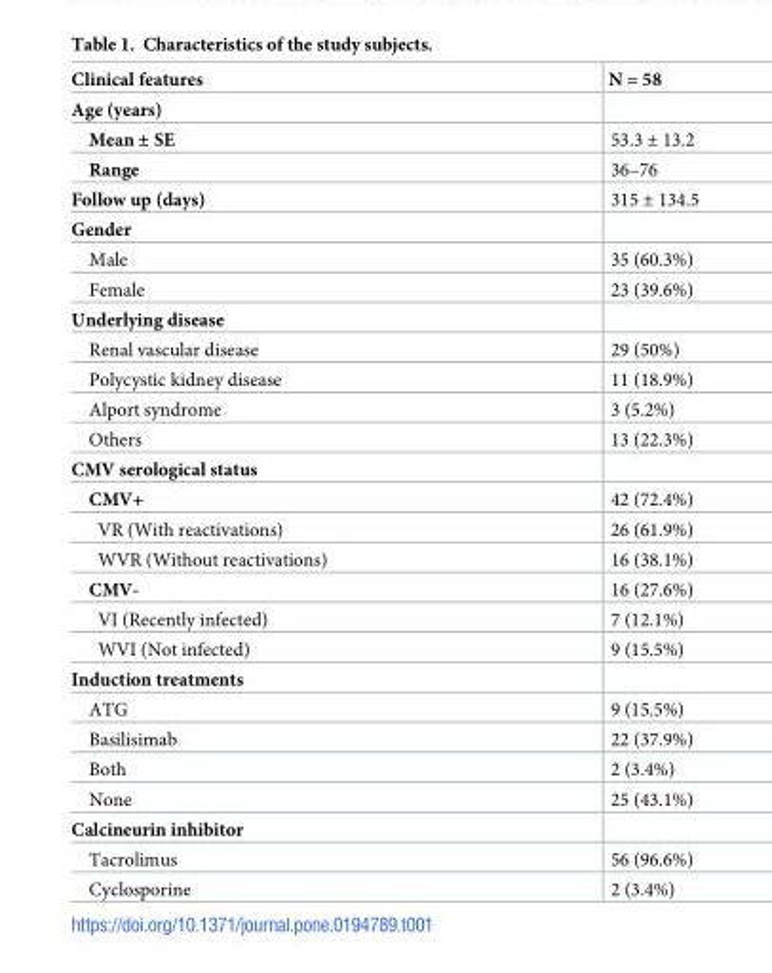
<table><thead><tr><td>Clinical features</td><td>N = 58</td></tr></thead><tbody><tr><td colspan="2">Age (years)</td></tr><tr><td>Mean ± SE</td><td>53.3 ± 13.2</td></tr><tr><td>Range</td><td>36–76</td></tr><tr><td>Follow up (days)</td><td>315 ± 134.5</td></tr><tr><td colspan="2">Gender</td></tr><tr><td>Male</td><td>35 (60.3%)</td></tr><tr><td>Female</td><td>23 (39.6%)</td></tr><tr><td colspan="2">Underlying disease</td></tr><tr><td>Renal vascular disease</td><td>29 (50%)</td></tr><tr><td>Polycystic kidney disease</td><td>11 (18.9%)</td></tr><tr><td>Alport syndrome</td><td>3 (5.2%)</td></tr><tr><td>Others</td><td>13 (22.3%)</td></tr><tr><td colspan="2">CMV serological status</td></tr><tr><td>CMV+</td><td>42 (72.4%)</td></tr><tr><td>VR (With reactivations)</td><td>26 (61.9%)</td></tr><tr><td>WVR (Without reactivations)</td><td>16 (38.1%)</td></tr><tr><td>CMV-</td><td>16 (27.6%)</td></tr><tr><td>VI (Recently infected)</td><td>7 (12.1%)</td></tr><tr><td>WVI (Not infected)</td><td>9 (15.5%)</td></tr><tr><td colspan="2">Induction treatments</td></tr><tr><td>ATG</td><td>9 (15.5%)</td></tr><tr><td>Basilisimab</td><td>22 (37.9%)</td></tr><tr><td>Both</td><td>2 (3.4%)</td></tr><tr><td>None</td><td>25 (43.1%)</td></tr><tr><td colspan="2">Calcineurin inhibitor</td></tr><tr><td>Tacrolimus</td><td>56 (96.6%)</td></tr><tr><td>Cyclosporine</td><td>2 (3.4%)</td></tr></tbody></table>